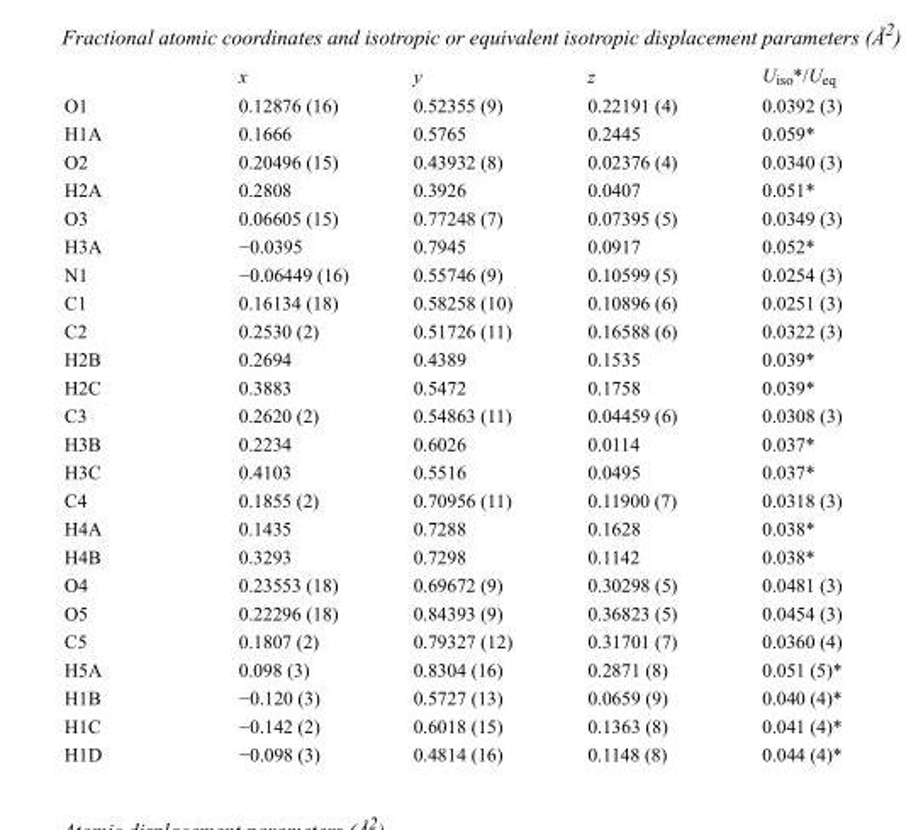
<table><thead><tr><td></td><td>x</td><td>y</td><td>z</td><td>U<sub>iso</sub>*/U<sub>eq</sub></td></tr></thead><tbody><tr><td>O1</td><td>0.12876 (16)</td><td>0.52355 (9)</td><td>0.22191 (4)</td><td>0.0392 (3)</td></tr><tr><td>H1A</td><td>0.1666</td><td>0.5765</td><td>0.2445</td><td>0.059*</td></tr><tr><td>O2</td><td>0.20496 (15)</td><td>0.43932 (8)</td><td>0.02376 (4)</td><td>0.0340 (3)</td></tr><tr><td>H2A</td><td>0.2808</td><td>0.3926</td><td>0.0407</td><td>0.051*</td></tr><tr><td>O3</td><td>0.06605 (15)</td><td>0.77248 (7)</td><td>0.07395 (5)</td><td>0.0349 (3)</td></tr><tr><td>H3A</td><td>−0.0395</td><td>0.7945</td><td>0.0917</td><td>0.052*</td></tr><tr><td>N1</td><td>−0.06449 (16)</td><td>0.55746 (9)</td><td>0.10599 (5)</td><td>0.0254 (3)</td></tr><tr><td>C1</td><td>0.16134 (18)</td><td>0.58258 (10)</td><td>0.10896 (6)</td><td>0.0251 (3)</td></tr><tr><td>C2</td><td>0.2530 (2)</td><td>0.51726 (11)</td><td>0.16588 (6)</td><td>0.0322 (3)</td></tr><tr><td>H2B</td><td>0.2694</td><td>0.4389</td><td>0.1535</td><td>0.039*</td></tr><tr><td>H2C</td><td>0.3883</td><td>0.5472</td><td>0.1758</td><td>0.039*</td></tr><tr><td>C3</td><td>0.2620 (2)</td><td>0.54863 (11)</td><td>0.04459 (6)</td><td>0.0308 (3)</td></tr><tr><td>H3B</td><td>0.2234</td><td>0.6026</td><td>0.0114</td><td>0.037*</td></tr><tr><td>H3C</td><td>0.4103</td><td>0.5516</td><td>0.0495</td><td>0.037*</td></tr><tr><td>C4</td><td>0.1855 (2)</td><td>0.70956 (11)</td><td>0.11900 (7)</td><td>0.0318 (3)</td></tr><tr><td>H4A</td><td>0.1435</td><td>0.7288</td><td>0.1628</td><td>0.038*</td></tr><tr><td>H4B</td><td>0.3293</td><td>0.7298</td><td>0.1142</td><td>0.038*</td></tr><tr><td>O4</td><td>0.23553 (18)</td><td>0.69672 (9)</td><td>0.30298 (5)</td><td>0.0481 (3)</td></tr><tr><td>O5</td><td>0.22296 (18)</td><td>0.84393 (9)</td><td>0.36823 (5)</td><td>0.0454 (3)</td></tr><tr><td>C5</td><td>0.1807 (2)</td><td>0.79327 (12)</td><td>0.31701 (7)</td><td>0.0360 (4)</td></tr><tr><td>H5A</td><td>0.098 (3)</td><td>0.8304 (16)</td><td>0.2871 (8)</td><td>0.051 (5)*</td></tr><tr><td>H1B</td><td>−0.120 (3)</td><td>0.5727 (13)</td><td>0.0659 (9)</td><td>0.040 (4)*</td></tr><tr><td>H1C</td><td>−0.142 (2)</td><td>0.6018 (15)</td><td>0.1363 (8)</td><td>0.041 (4)*</td></tr><tr><td>H1D</td><td>−0.098 (3)</td><td>0.4814 (16)</td><td>0.1148 (8)</td><td>0.044 (4)*</td></tr></tbody></table>